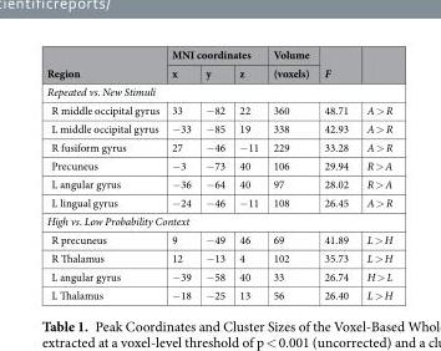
<table><thead><tr><td rowspan="2">Region</td><td colspan="3">MNI coordinates</td><td rowspan="2">Volume (voxels)</td><td rowspan="2">F</td><td rowspan="2"></td></tr><tr><td>x</td><td>y</td><td>z</td></tr></thead><tbody><tr><td colspan="7">Repeated vs. New Stimuli</td></tr><tr><td>R middle occipital gyrus</td><td>33</td><td>−82</td><td>22</td><td>360</td><td>48.71</td><td>A &gt; R</td></tr><tr><td>L middle occipital gyrus</td><td>−33</td><td>−85</td><td>19</td><td>338</td><td>42.93</td><td>A &gt; R</td></tr><tr><td>R fusiform gyrus</td><td>27</td><td>−46</td><td>−11</td><td>229</td><td>33.28</td><td>A &gt; R</td></tr><tr><td>Precuneus</td><td>−3</td><td>−73</td><td>40</td><td>106</td><td>29.94</td><td>R &gt; A</td></tr><tr><td>L angular gyrus</td><td>−36</td><td>−64</td><td>40</td><td>97</td><td>28.02</td><td>R &gt; A</td></tr><tr><td>L lingual gyrus</td><td>−24</td><td>−46</td><td>−11</td><td>108</td><td>26.45</td><td>A &gt; R</td></tr><tr><td colspan="7">High vs. Low Probability Context</td></tr><tr><td>R precuneus</td><td>9</td><td>−49</td><td>46</td><td>69</td><td>41.89</td><td>L &gt; H</td></tr><tr><td>R Thalamus</td><td>12</td><td>−13</td><td>4</td><td>102</td><td>35.73</td><td>L &gt; H</td></tr><tr><td>L angular gyrus</td><td>−39</td><td>−58</td><td>40</td><td>33</td><td>26.74</td><td>H &gt; L</td></tr><tr><td>L Thalamus</td><td>−18</td><td>−25</td><td>13</td><td>56</td><td>26.40</td><td>L &gt; H</td></tr></tbody></table>